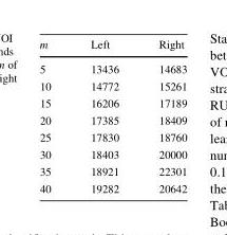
<table><thead><tr><td>m</td><td>Left</td><td>Right</td></tr></thead><tbody><tr><td>5</td><td>13436</td><td>14683</td></tr><tr><td>10</td><td>14772</td><td>15261</td></tr><tr><td>15</td><td>16206</td><td>17189</td></tr><tr><td>20</td><td>17385</td><td>18409</td></tr><tr><td>25</td><td>17830</td><td>18760</td></tr><tr><td>30</td><td>18403</td><td>20000</td></tr><tr><td>35</td><td>18921</td><td>22301</td></tr><tr><td>40</td><td>19282</td><td>20642</td></tr></tbody></table>